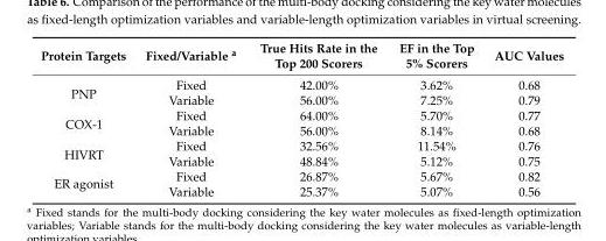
<table><thead><tr><td>Protein Targets</td><td>Fixed/Variable <sup>a</sup></td><td>True Hits Rate in the Top 200 Scorers</td><td>EF in the Top 5% Scorers</td><td>AUC Values</td></tr></thead><tbody><tr><td rowspan="2">PNP</td><td>Fixed</td><td>42.00%</td><td>3.62%</td><td>0.68</td></tr><tr><td>Variable</td><td>56.00%</td><td>7.25%</td><td>0.79</td></tr><tr><td rowspan="2">COX-1</td><td>Fixed</td><td>64.00%</td><td>5.70%</td><td>0.77</td></tr><tr><td>Variable</td><td>56.00%</td><td>8.14%</td><td>0.68</td></tr><tr><td rowspan="2">HIVRT</td><td>Fixed</td><td>32.56%</td><td>11.54%</td><td>0.76</td></tr><tr><td>Variable</td><td>48.84%</td><td>5.12%</td><td>0.75</td></tr><tr><td rowspan="2">ER agonist</td><td>Fixed</td><td>26.87%</td><td>5.67%</td><td>0.82</td></tr><tr><td>Variable</td><td>25.37%</td><td>5.07%</td><td>0.56</td></tr></tbody></table>